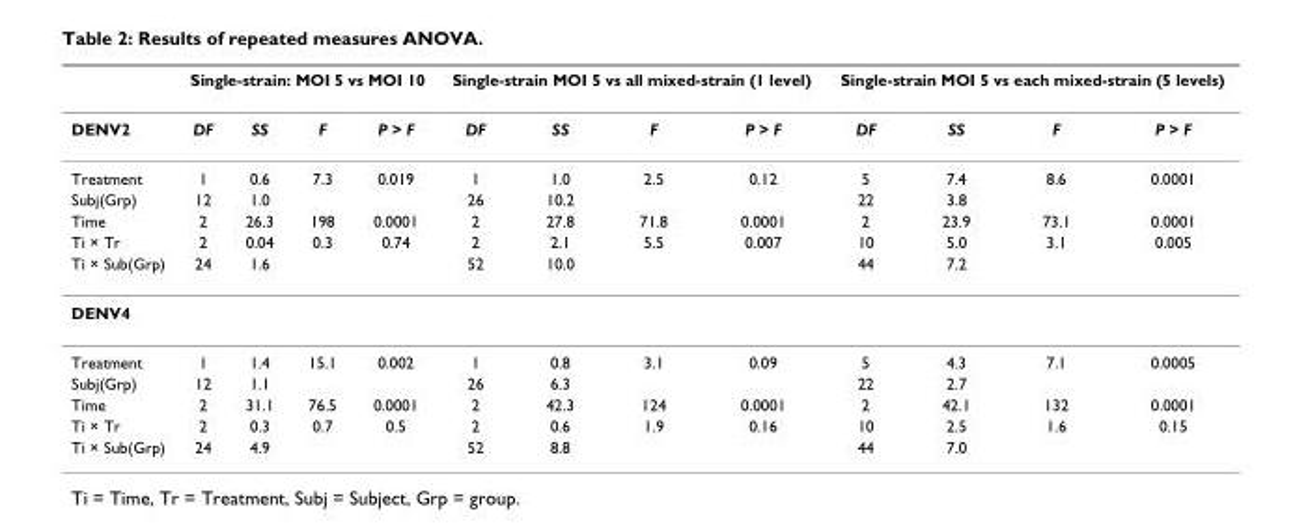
<table><thead><tr><td rowspan="2">DENV2</td><td colspan="4">Single-strain: MOI 5 vs MOI 10</td><td colspan="4">Single-strain MOI 5 vs all mixed-strain (1 level)</td><td colspan="4">Single-strain MOI 5 vs each mixed-strain (5 levels)</td></tr><tr><td>DF</td><td>SS</td><td>F</td><td>P &gt; F</td><td>DF</td><td>SS</td><td>F</td><td>P &gt; F</td><td>DF</td><td>SS</td><td>F</td><td>P &gt; F</td></tr></thead><tbody><tr><td>Treatment</td><td>1</td><td>0.6</td><td>7.3</td><td>0.019</td><td>1</td><td>1.0</td><td>2.5</td><td>0.12</td><td>5</td><td>7.4</td><td>8.6</td><td>0.0001</td></tr><tr><td>Subj(Grp)</td><td>12</td><td>1.0</td><td></td><td></td><td>26</td><td>10.2</td><td></td><td></td><td>22</td><td>3.8</td><td></td><td></td></tr><tr><td>Time</td><td>2</td><td>26.3</td><td>198</td><td>0.0001</td><td>2</td><td>27.8</td><td>71.8</td><td>0.0001</td><td>2</td><td>23.9</td><td>73.1</td><td>0.0001</td></tr><tr><td>Ti × Tr</td><td>2</td><td>0.04</td><td>0.3</td><td>0.74</td><td>2</td><td>2.1</td><td>5.5</td><td>0.007</td><td>10</td><td>5.0</td><td>3.1</td><td>0.005</td></tr><tr><td>Ti × Sub(Grp)</td><td>24</td><td>1.6</td><td></td><td></td><td>52</td><td>10.0</td><td></td><td></td><td>44</td><td>7.2</td><td></td><td></td></tr><tr><td colspan="13">DENV4</td></tr><tr><td>Treatment</td><td>1</td><td>1.4</td><td>15.1</td><td>0.002</td><td>1</td><td>0.8</td><td>3.1</td><td>0.09</td><td>5</td><td>4.3</td><td>7.1</td><td>0.0005</td></tr><tr><td>Subj(Grp)</td><td>12</td><td>1.1</td><td></td><td></td><td>26</td><td>6.3</td><td></td><td></td><td>22</td><td>2.7</td><td></td><td></td></tr><tr><td>Time</td><td>2</td><td>31.1</td><td>76.5</td><td>0.0001</td><td>2</td><td>42.3</td><td>124</td><td>0.0001</td><td>2</td><td>42.1</td><td>132</td><td>0.0001</td></tr><tr><td>Ti × Tr</td><td>2</td><td>0.3</td><td>0.7</td><td>0.5</td><td>2</td><td>0.6</td><td>1.9</td><td>0.16</td><td>10</td><td>2.5</td><td>1.6</td><td>0.15</td></tr><tr><td>Ti × Sub(Grp)</td><td>24</td><td>4.9</td><td></td><td></td><td>52</td><td>8.8</td><td></td><td></td><td>44</td><td>7.0</td><td></td><td></td></tr></tbody></table>